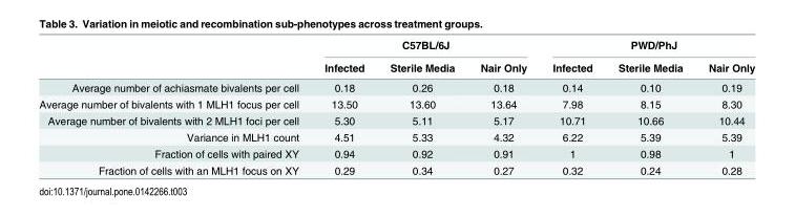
<table><thead><tr><td rowspan="2"></td><td colspan="3">C57BL/6J</td><td colspan="3">PWD/PhJ</td></tr><tr><td>Infected</td><td>Sterile Media</td><td>Nair Only</td><td>Infected</td><td>Sterile Media</td><td>Nair Only</td></tr></thead><tbody><tr><td>Average number of achiasmate bivalents per cell</td><td>0.18</td><td>0.26</td><td>0.18</td><td>0.14</td><td>0.10</td><td>0.19</td></tr><tr><td>Average number of bivalents with 1 MLH1 focus per cell</td><td>13.50</td><td>13.60</td><td>13.64</td><td>7.98</td><td>8.15</td><td>8.30</td></tr><tr><td>Average number of bivalents with 2 MLH1 foci per cell</td><td>5.30</td><td>5.11</td><td>5.17</td><td>10.71</td><td>10.66</td><td>10.44</td></tr><tr><td>Variance in MLH1 count</td><td>4.51</td><td>5.33</td><td>4.32</td><td>6.22</td><td>5.39</td><td>5.39</td></tr><tr><td>Fraction of cells with paired XY</td><td>0.94</td><td>0.92</td><td>0.91</td><td>1</td><td>0.98</td><td>1</td></tr><tr><td>Fraction of cells with an MLH1 focus on XY</td><td>0.29</td><td>0.34</td><td>0.27</td><td>0.32</td><td>0.24</td><td>0.28</td></tr></tbody></table>